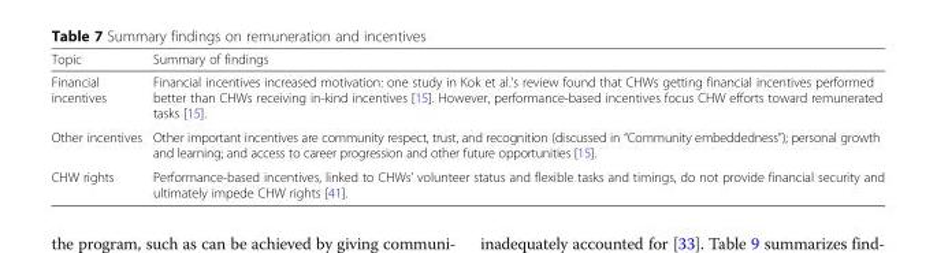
<table><thead><tr><td>Topic</td><td>Summary of findings</td></tr></thead><tbody><tr><td>Financial incentives</td><td>Financial incentives increased motivation: one study in Kok et al.’s review found that CHWs getting financial incentives performed better than CHWs receiving in-kind incentives [15]. However, performance-based incentives focus CHW efforts toward remunerated tasks [15].</td></tr><tr><td>Other incentives</td><td>Other important incentives are community respect, trust, and recognition (discussed in “Community embeddedness”); personal growth and learning; and access to career progression and other future opportunities [15].</td></tr><tr><td>CHW rights</td><td>Performance-based incentives, linked to CHWs’ volunteer status and flexible tasks and timings, do not provide financial security and ultimately impede CHW rights [41].</td></tr></tbody></table>